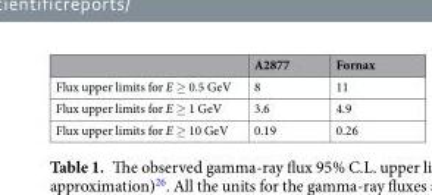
<table><thead><tr><td></td><td>A2877</td><td>Fornax</td></tr></thead><tbody><tr><td>Flux upper limits for E ≥ 0.5 GeV</td><td>8</td><td>11</td></tr><tr><td>Flux upper limits for E ≥ 1 GeV</td><td>3.6</td><td>4.9</td></tr><tr><td>Flux upper limits for E ≥ 10 GeV</td><td>0.19</td><td>0.26</td></tr></tbody></table>